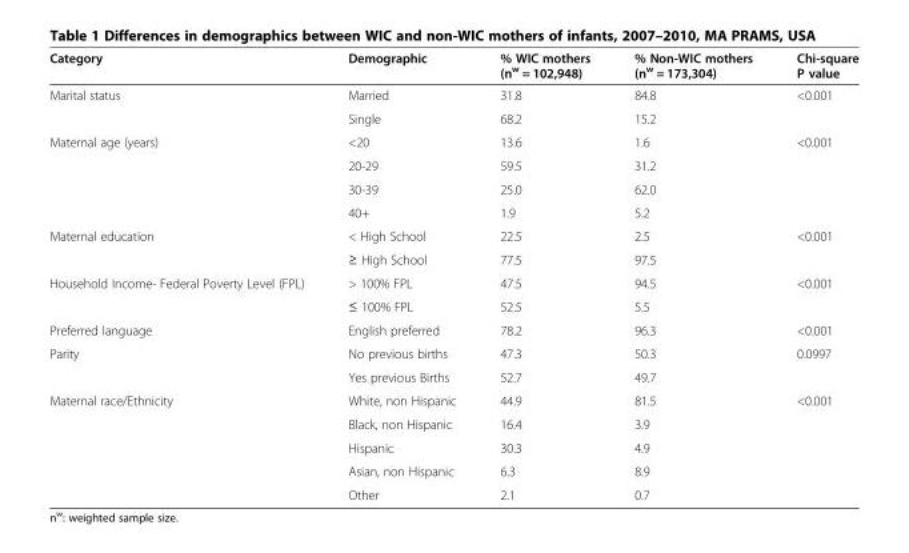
<table><thead><tr><td>Category</td><td>Demographic</td><td>% WIC mothers (n<sup>w</sup> = 102,948)</td><td>% Non-WIC mothers (n<sup>w</sup> = 173,304)</td><td>Chi-square P value</td></tr></thead><tbody><tr><td rowspan="2">Marital status</td><td>Married</td><td>31.8</td><td>84.8</td><td rowspan="2">&lt;0.001</td></tr><tr><td>Single</td><td>68.2</td><td>15.2</td></tr><tr><td rowspan="4">Maternal age (years)</td><td>&lt;20</td><td>13.6</td><td>1.6</td><td rowspan="4">&lt;0.001</td></tr><tr><td>20-29</td><td>59.5</td><td>31.2</td></tr><tr><td>30-39</td><td>25.0</td><td>62.0</td></tr><tr><td>40+</td><td>1.9</td><td>5.2</td></tr><tr><td rowspan="2">Maternal education</td><td>&lt; High School</td><td>22.5</td><td>2.5</td><td rowspan="2">&lt;0.001</td></tr><tr><td>≥ High School</td><td>77.5</td><td>97.5</td></tr><tr><td rowspan="2">Household Income- Federal Poverty Level (FPL)</td><td>&gt; 100% FPL</td><td>47.5</td><td>94.5</td><td rowspan="2">&lt;0.001</td></tr><tr><td>≤ 100% FPL</td><td>52.5</td><td>5.5</td></tr><tr><td>Preferred language</td><td>English preferred</td><td>78.2</td><td>96.3</td><td>&lt;0.001</td></tr><tr><td rowspan="2">Parity</td><td>No previous births</td><td>47.3</td><td>50.3</td><td rowspan="2">0.0997</td></tr><tr><td>Yes previous Births</td><td>52.7</td><td>49.7</td></tr><tr><td rowspan="5">Maternal race/Ethnicity</td><td>White, non Hispanic</td><td>44.9</td><td>81.5</td><td rowspan="5">&lt;0.001</td></tr><tr><td>Black, non Hispanic</td><td>16.4</td><td>3.9</td></tr><tr><td>Hispanic</td><td>30.3</td><td>4.9</td></tr><tr><td>Asian, non Hispanic</td><td>6.3</td><td>8.9</td></tr><tr><td>Other</td><td>2.1</td><td>0.7</td></tr></tbody></table>